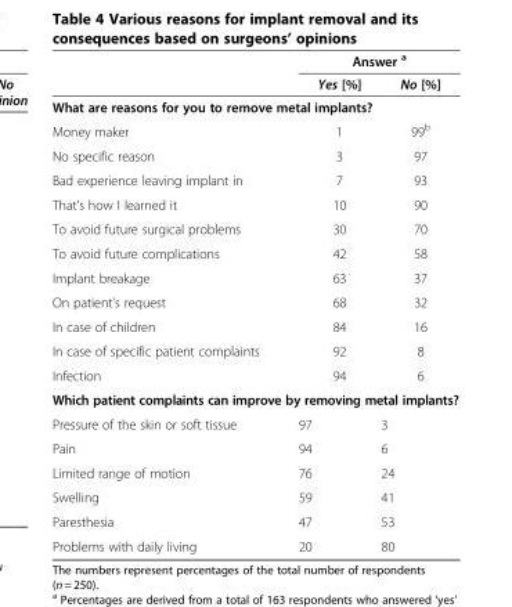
<table><thead><tr><td rowspan="2"></td><td colspan="2">Answer <sup>a</sup></td></tr><tr><td>Yes [%]</td><td>No [%]</td></tr></thead><tbody><tr><td colspan="3">What are reasons for you to remove metal implants?</td></tr><tr><td>Money maker</td><td>1</td><td>99<sup>b</sup></td></tr><tr><td>No specific reason</td><td>3</td><td>97</td></tr><tr><td>Bad experience leaving implant in</td><td>7</td><td>93</td></tr><tr><td>That&#x27;s how I learned it</td><td>10</td><td>90</td></tr><tr><td>To avoid future surgical problems</td><td>30</td><td>70</td></tr><tr><td>To avoid future complications</td><td>42</td><td>58</td></tr><tr><td>Implant breakage</td><td>63</td><td>37</td></tr><tr><td>On patient&#x27;s request</td><td>68</td><td>32</td></tr><tr><td>In case of children</td><td>84</td><td>16</td></tr><tr><td>In case of specific patient complaints</td><td>92</td><td>8</td></tr><tr><td>Infection</td><td>94</td><td>6</td></tr><tr><td colspan="3">Which patient complaints can improve by removing metal implants?</td></tr><tr><td>Pressure of the skin or soft tissue</td><td>97</td><td>3</td></tr><tr><td>Pain</td><td>94</td><td>6</td></tr><tr><td>Limited range of motion</td><td>76</td><td>24</td></tr><tr><td>Swelling</td><td>59</td><td>41</td></tr><tr><td>Paresthesia</td><td>47</td><td>53</td></tr><tr><td>Problems with daily living</td><td>20</td><td>80</td></tr></tbody></table>